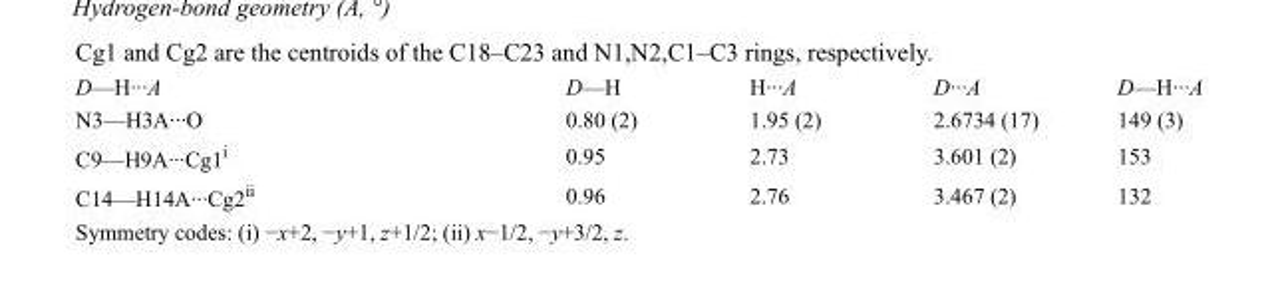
<table><tbody><tr><td>D—H···A</td><td>D—H</td><td>H···A</td><td>D···A</td><td>D—H···A</td></tr><tr><td>N3—H3A···O</td><td>0.80 (2)</td><td>1.95 (2)</td><td>2.6734 (17)</td><td>149 (3)</td></tr><tr><td>C9—H9A···Cg1<sup>i</sup></td><td>0.95</td><td>2.73</td><td>3.601 (2)</td><td>153</td></tr><tr><td>C14—H14A···Cg2<sup>ii</sup></td><td>0.96</td><td>2.76</td><td>3.467 (2)</td><td>132</td></tr></tbody></table>